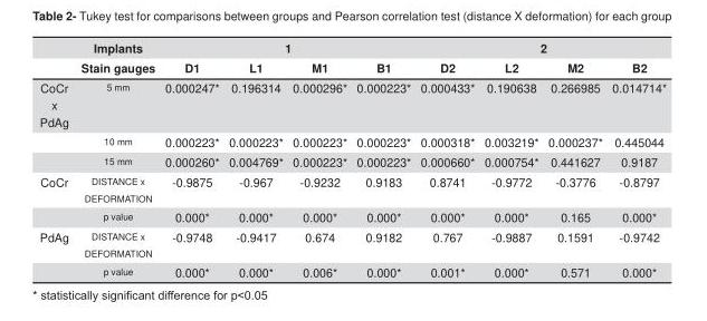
<table><thead><tr><td rowspan="2"></td><td rowspan="2">Implants Stain gauges</td><td colspan="4">1</td><td colspan="4">2</td></tr><tr><td>D1</td><td>L1</td><td>M1</td><td>B1</td><td>D2</td><td>L2</td><td>M2</td><td>B2</td></tr></thead><tbody><tr><td rowspan="3">CoCr x PdAg</td><td>5 mm</td><td>0.000247*</td><td>0.196314</td><td>0.000296*</td><td>0.000223*</td><td>0.000433*</td><td>0.190638</td><td>0.266985</td><td>0.014714*</td></tr><tr><td>10 mm</td><td>0.000223*</td><td>0.000223*</td><td>0.000223*</td><td>0.000223*</td><td>0.000318*</td><td>0.003219*</td><td>0.000237*</td><td>0.445044</td></tr><tr><td>15 mm</td><td>0.000260*</td><td>0.004769*</td><td>0.000223*</td><td>0.000223*</td><td>0.000660*</td><td>0.000754*</td><td>0.441627</td><td>0.9187</td></tr><tr><td rowspan="2">CoCr</td><td>DISTANCE x DEFORMATION</td><td>-0.9875</td><td>-0.967</td><td>-0.9232</td><td>0.9183</td><td>0.8741</td><td>-0.9772</td><td>-0.3776</td><td>-0.8797</td></tr><tr><td>p value</td><td>0.000*</td><td>0.000*</td><td>0.000*</td><td>0.000*</td><td>0.000*</td><td>0.000*</td><td>0.165</td><td>0.000*</td></tr><tr><td rowspan="2">PdAg</td><td>DISTANCE x DEFORMATION</td><td>-0.9748</td><td>-0.9417</td><td>0.674</td><td>0.9182</td><td>0.767</td><td>-0.9887</td><td>0.1591</td><td>-0.9742</td></tr><tr><td>p value</td><td>0.000*</td><td>0.000*</td><td>0.006*</td><td>0.000*</td><td>0.001*</td><td>0.000*</td><td>0.571</td><td>0.000*</td></tr></tbody></table>